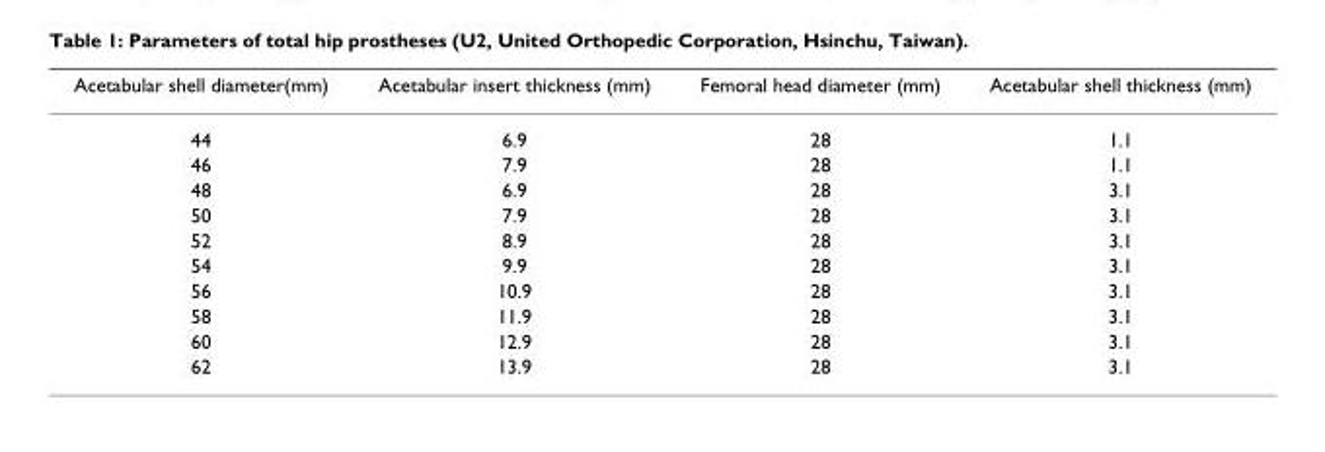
<table><thead><tr><td>Acetabular shell diameter(mm)</td><td>Acetabular insert thickness (mm)</td><td>Femoral head diameter (mm)</td><td>Acetabular shell thickness (mm)</td></tr></thead><tbody><tr><td>44</td><td>6.9</td><td>28</td><td>1.1</td></tr><tr><td>46</td><td>7.9</td><td>28</td><td>1.1</td></tr><tr><td>48</td><td>6.9</td><td>28</td><td>3.1</td></tr><tr><td>50</td><td>7.9</td><td>28</td><td>3.1</td></tr><tr><td>52</td><td>8.9</td><td>28</td><td>3.1</td></tr><tr><td>54</td><td>9.9</td><td>28</td><td>3.1</td></tr><tr><td>56</td><td>10.9</td><td>28</td><td>3.1</td></tr><tr><td>58</td><td>11.9</td><td>28</td><td>3.1</td></tr><tr><td>60</td><td>12.9</td><td>28</td><td>3.1</td></tr><tr><td>62</td><td>13.9</td><td>28</td><td>3.1</td></tr></tbody></table>